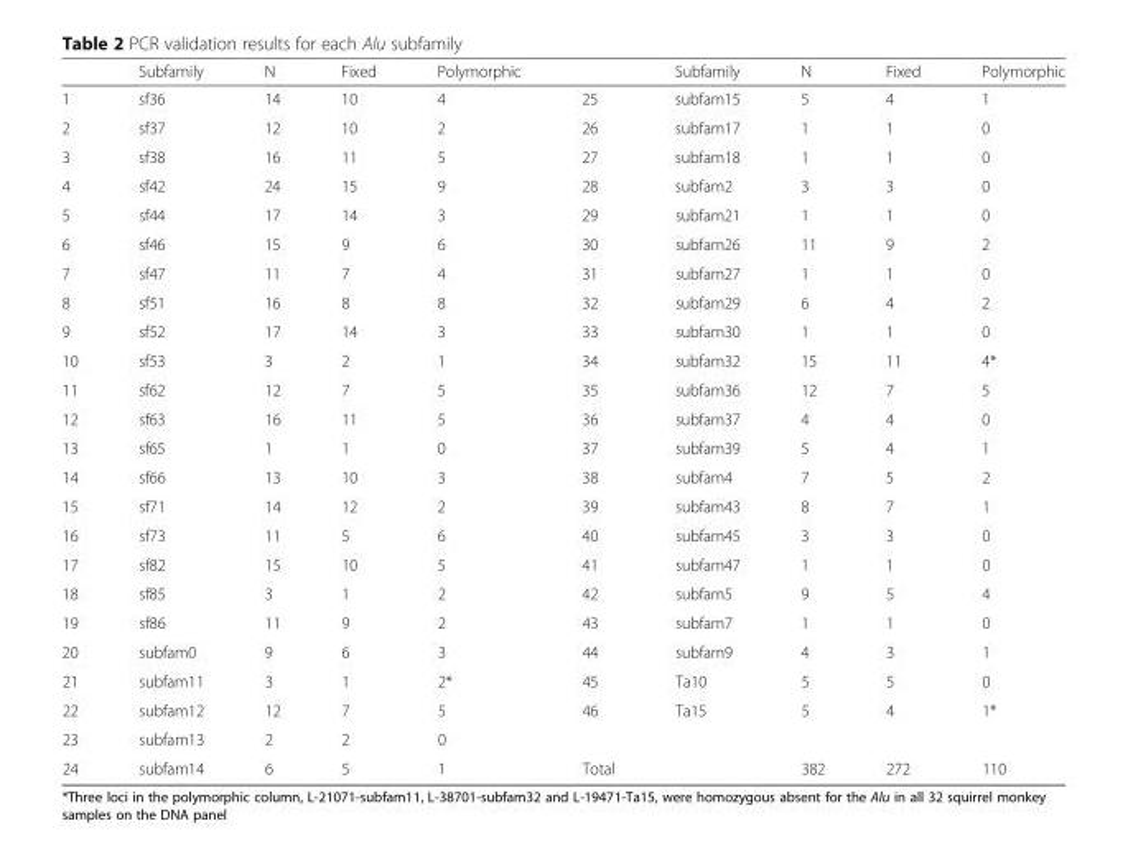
<table><thead><tr><td></td><td>Subfamily</td><td>N</td><td>Fixed</td><td>Polymorphic</td><td></td><td>Subfamily</td><td>N</td><td>Fixed</td><td>Polymorphic</td></tr></thead><tbody><tr><td>1</td><td>sf36</td><td>14</td><td>10</td><td>4</td><td>25</td><td>subfam15</td><td>5</td><td>4</td><td>1</td></tr><tr><td>2</td><td>sf37</td><td>12</td><td>10</td><td>2</td><td>26</td><td>subfam17</td><td>1</td><td>1</td><td>0</td></tr><tr><td>3</td><td>sf38</td><td>16</td><td>11</td><td>5</td><td>27</td><td>subfam18</td><td>1</td><td>1</td><td>0</td></tr><tr><td>4</td><td>sf42</td><td>24</td><td>15</td><td>9</td><td>28</td><td>subfam2</td><td>3</td><td>3</td><td>0</td></tr><tr><td>5</td><td>sf44</td><td>17</td><td>14</td><td>3</td><td>29</td><td>subfam21</td><td>1</td><td>1</td><td>0</td></tr><tr><td>6</td><td>sf46</td><td>15</td><td>9</td><td>6</td><td>30</td><td>subfam26</td><td>11</td><td>9</td><td>2</td></tr><tr><td>7</td><td>sf47</td><td>11</td><td>7</td><td>4</td><td>31</td><td>subfam27</td><td>1</td><td>1</td><td>0</td></tr><tr><td>8</td><td>sf51</td><td>16</td><td>8</td><td>8</td><td>32</td><td>subfam29</td><td>6</td><td>4</td><td>2</td></tr><tr><td>9</td><td>sf52</td><td>17</td><td>14</td><td>3</td><td>33</td><td>subfam30</td><td>1</td><td>1</td><td>0</td></tr><tr><td>10</td><td>sf53</td><td>3</td><td>2</td><td>1</td><td>34</td><td>subfam32</td><td>15</td><td>11</td><td>4*</td></tr><tr><td>11</td><td>sf62</td><td>12</td><td>7</td><td>5</td><td>35</td><td>subfam36</td><td>12</td><td>7</td><td>5</td></tr><tr><td>12</td><td>sf63</td><td>16</td><td>11</td><td>5</td><td>36</td><td>subfam37</td><td>4</td><td>4</td><td>0</td></tr><tr><td>13</td><td>sf65</td><td>1</td><td>1</td><td>0</td><td>37</td><td>subfam39</td><td>5</td><td>4</td><td>1</td></tr><tr><td>14</td><td>sf66</td><td>13</td><td>10</td><td>3</td><td>38</td><td>subfam4</td><td>7</td><td>5</td><td>2</td></tr><tr><td>15</td><td>sf71</td><td>14</td><td>12</td><td>2</td><td>39</td><td>subfam43</td><td>8</td><td>7</td><td>1</td></tr><tr><td>16</td><td>sf73</td><td>11</td><td>5</td><td>6</td><td>40</td><td>subfam45</td><td>3</td><td>3</td><td>0</td></tr><tr><td>17</td><td>sf82</td><td>15</td><td>10</td><td>5</td><td>41</td><td>subfam47</td><td>1</td><td>1</td><td>0</td></tr><tr><td>18</td><td>sf85</td><td>3</td><td>1</td><td>2</td><td>42</td><td>subfam5</td><td>9</td><td>5</td><td>4</td></tr><tr><td>19</td><td>sf86</td><td>11</td><td>9</td><td>2</td><td>43</td><td>subfam7</td><td>1</td><td>1</td><td>0</td></tr><tr><td>20</td><td>subfam0</td><td>9</td><td>6</td><td>3</td><td>44</td><td>subfam9</td><td>4</td><td>3</td><td>1</td></tr><tr><td>21</td><td>subfam11</td><td>3</td><td>1</td><td>2*</td><td>45</td><td>Ta10</td><td>5</td><td>5</td><td>0</td></tr><tr><td>22</td><td>subfam12</td><td>12</td><td>7</td><td>5</td><td>46</td><td>Ta15</td><td>5</td><td>4</td><td>1*</td></tr><tr><td>23</td><td>subfam13</td><td>2</td><td>2</td><td>0</td><td></td><td></td><td></td><td></td><td></td></tr><tr><td>24</td><td>subfam14</td><td>6</td><td>5</td><td>1</td><td>Total</td><td></td><td>382</td><td>272</td><td>110</td></tr></tbody></table>